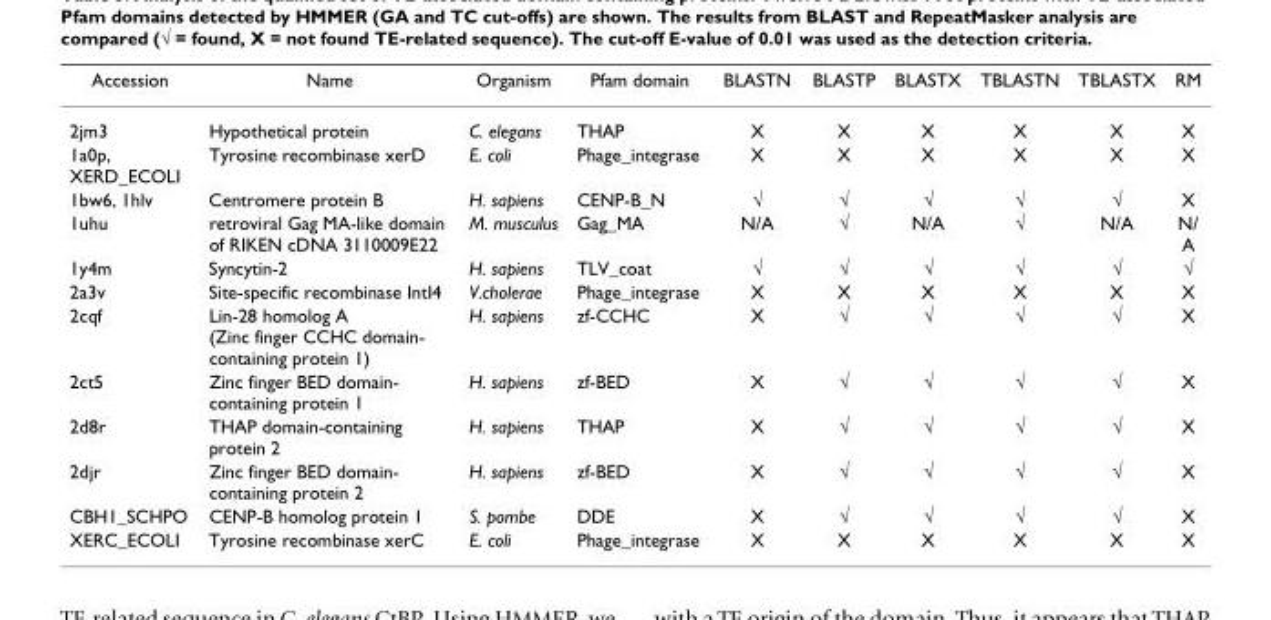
<table><thead><tr><td>Accession</td><td>Name</td><td>Organism</td><td>Pfam domain</td><td>BLASTN</td><td>BLASTP</td><td>BLASTX</td><td>TBLASTN</td><td>TBLASTX</td><td>RM</td></tr></thead><tbody><tr><td>2jm3</td><td>Hypothetical protein</td><td>C. elegans</td><td>THAP</td><td>X</td><td>X</td><td>X</td><td>X</td><td>X</td><td>X</td></tr><tr><td>1a0p, XERD_ECOLI</td><td>Tyrosine recombinase xerD</td><td>E. coli</td><td>Phage_integrase</td><td>X</td><td>X</td><td>X</td><td>X</td><td>X</td><td>X</td></tr><tr><td>1bw6, 1hlv</td><td>Centromere protein B</td><td>H. sapiens</td><td>CENP-B_N</td><td>√</td><td>√</td><td>√</td><td>√</td><td>√</td><td>X</td></tr><tr><td>1uhu</td><td>retroviral Gag MA-like domain of RIKEN cDNA 3110009E22</td><td>M. musculus</td><td>Gag_MA</td><td>N/A</td><td>√</td><td>N/A</td><td>√</td><td>N/A</td><td>N/ A</td></tr><tr><td>1y4m</td><td>Syncytin-2</td><td>H. sapiens</td><td>TLV_coat</td><td>√</td><td>√</td><td>√</td><td>√</td><td>√</td><td>√</td></tr><tr><td>2a3v</td><td>Site-specific recombinase IntI4</td><td>V.cholerae</td><td>Phage_integrase</td><td>X</td><td>X</td><td>X</td><td>X</td><td>X</td><td>X</td></tr><tr><td>2cqf</td><td>Lin-28 homolog A (Zinc finger CCHC domain- containing protein 1)</td><td>H. sapiens</td><td>zf-CCHC</td><td>X</td><td>√</td><td>√</td><td>√</td><td>√</td><td>X</td></tr><tr><td>2ct5</td><td>Zinc finger BED domain- containing protein 1</td><td>H. sapiens</td><td>zf-BED</td><td>X</td><td>√</td><td>√</td><td>√</td><td>√</td><td>X</td></tr><tr><td>2d8r</td><td>THAP domain-containing protein 2</td><td>H. sapiens</td><td>THAP</td><td>X</td><td>√</td><td>√</td><td>√</td><td>√</td><td>X</td></tr><tr><td>2djr</td><td>Zinc finger BED domain- containing protein 2</td><td>H. sapiens</td><td>zf-BED</td><td>X</td><td>√</td><td>√</td><td>√</td><td>√</td><td>X</td></tr><tr><td>CBH1_SCHPO</td><td>CENP-B homolog protein 1</td><td>S. pombe</td><td>DDE</td><td>X</td><td>√</td><td>√</td><td>√</td><td>√</td><td>X</td></tr><tr><td>XERC_ECOLI</td><td>Tyrosine recombinase xerC</td><td>E. coli</td><td>Phage_integrase</td><td>X</td><td>X</td><td>X</td><td>X</td><td>X</td><td>X</td></tr></tbody></table>